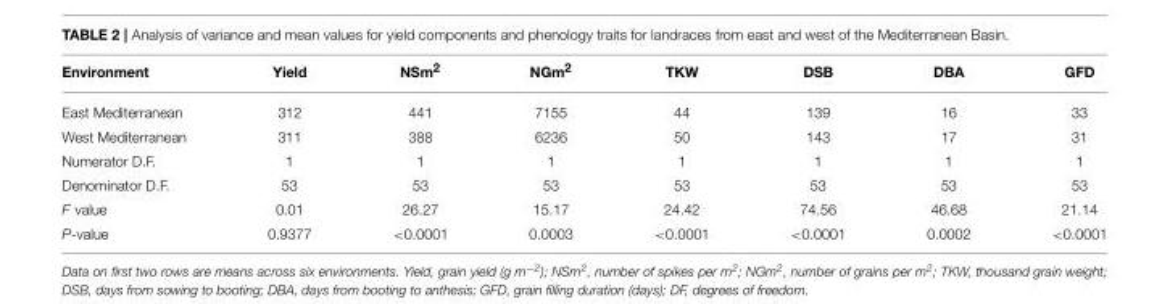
<table><thead><tr><td>Environment</td><td>Yield</td><td>NSm<sup>2</sup></td><td>NGm<sup>2</sup></td><td>TKW</td><td>DSB</td><td>DBA</td><td>GFD</td></tr></thead><tbody><tr><td>East Mediterranean</td><td>312</td><td>441</td><td>7155</td><td>44</td><td>139</td><td>16</td><td>33</td></tr><tr><td>West Mediterranean</td><td>311</td><td>388</td><td>6236</td><td>50</td><td>143</td><td>17</td><td>31</td></tr><tr><td>Numerator D.F.</td><td>1</td><td>1</td><td>1</td><td>1</td><td>1</td><td>1</td><td>1</td></tr><tr><td>Denominator D.F.</td><td>53</td><td>53</td><td>53</td><td>53</td><td>53</td><td>53</td><td>53</td></tr><tr><td>F value</td><td>0.01</td><td>26.27</td><td>15.17</td><td>24.42</td><td>74.56</td><td>46.68</td><td>21.14</td></tr><tr><td>P-value</td><td>0.9377</td><td>&lt;0.0001</td><td>0.0003</td><td>&lt;0.0001</td><td>&lt;0.0001</td><td>0.0002</td><td>&lt;0.0001</td></tr></tbody></table>